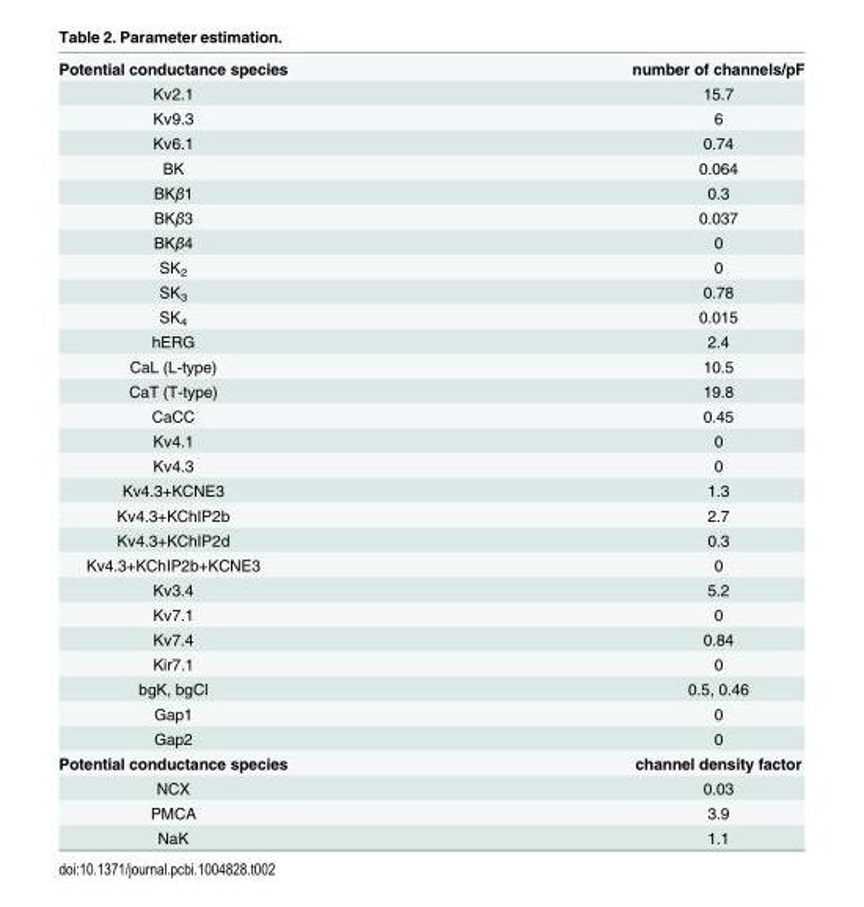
<table><tbody><tr><td>Potential conductance species</td><td>number of channels/pF</td></tr><tr><td>Kv2.1</td><td>15.7</td></tr><tr><td>Kv9.3</td><td>6</td></tr><tr><td>Kv6.1</td><td>0.74</td></tr><tr><td>BK</td><td>0.064</td></tr><tr><td>BKβ1</td><td>0.3</td></tr><tr><td>BKβ3</td><td>0.037</td></tr><tr><td>BKβ4</td><td>0</td></tr><tr><td>SK<sub>2</sub></td><td>0</td></tr><tr><td>SK<sub>3</sub></td><td>0.78</td></tr><tr><td>SK<sub>4</sub></td><td>0.015</td></tr><tr><td>hERG</td><td>2.4</td></tr><tr><td>CaL (L-type)</td><td>10.5</td></tr><tr><td>CaT (T-type)</td><td>19.8</td></tr><tr><td>CaCC</td><td>0.45</td></tr><tr><td>Kv4.1</td><td>0</td></tr><tr><td>Kv4.3</td><td>0</td></tr><tr><td>Kv4.3+KCNE3</td><td>1.3</td></tr><tr><td>Kv4.3+KChIP2b</td><td>2.7</td></tr><tr><td>Kv4.3+KChIP2d</td><td>0.3</td></tr><tr><td>Kv4.3+KChIP2b+KCNE3</td><td>0</td></tr><tr><td>Kv3.4</td><td>5.2</td></tr><tr><td>Kv7.1</td><td>0</td></tr><tr><td>Kv7.4</td><td>0.84</td></tr><tr><td>Kir7.1</td><td>0</td></tr><tr><td>bgK, bgCl</td><td>0.5, 0.46</td></tr><tr><td>Gap1</td><td>0</td></tr><tr><td>Gap2</td><td>0</td></tr><tr><td>Potential conductance species</td><td>channel density factor</td></tr><tr><td>NCX</td><td>0.03</td></tr><tr><td>PMCA</td><td>3.9</td></tr><tr><td>NaK</td><td>1.1</td></tr></tbody></table>